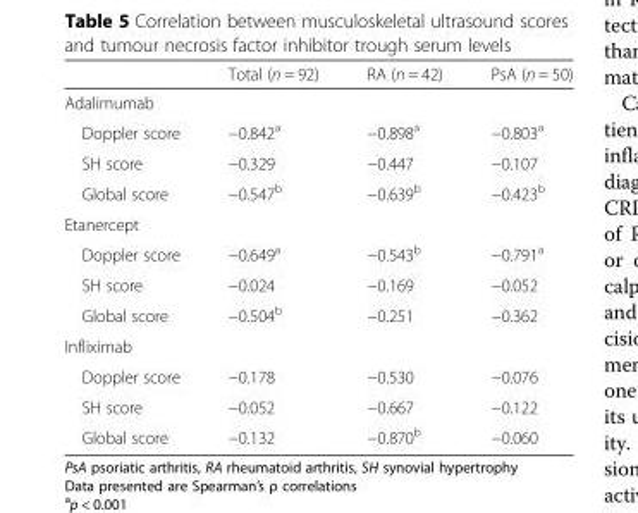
<table><thead><tr><td></td><td>Total (n = 92)</td><td>RA (n = 42)</td><td>PsA (n = 50)</td></tr></thead><tbody><tr><td colspan="4">Adalimumab</td></tr><tr><td>Doppler score</td><td>−0.842<sup>a</sup></td><td>−0.898<sup>a</sup></td><td>−0.803<sup>a</sup></td></tr><tr><td>SH score</td><td>−0.329</td><td>−0.447</td><td>−0.107</td></tr><tr><td>Global score</td><td>−0.547<sup>b</sup></td><td>−0.639<sup>b</sup></td><td>−0.423<sup>b</sup></td></tr><tr><td colspan="4">Etanercept</td></tr><tr><td>Doppler score</td><td>−0.649<sup>a</sup></td><td>−0.543<sup>b</sup></td><td>−0.791<sup>a</sup></td></tr><tr><td>SH score</td><td>−0.024</td><td>−0.169</td><td>−0.052</td></tr><tr><td>Global score</td><td>−0.504<sup>b</sup></td><td>−0.251</td><td>−0.362</td></tr><tr><td colspan="4">Infliximab</td></tr><tr><td>Doppler score</td><td>−0.178</td><td>−0.530</td><td>−0.076</td></tr><tr><td>SH score</td><td>−0.052</td><td>−0.667</td><td>−0.122</td></tr><tr><td>Global score</td><td>−0.132</td><td>−0.870<sup>b</sup></td><td>−0.060</td></tr></tbody></table>